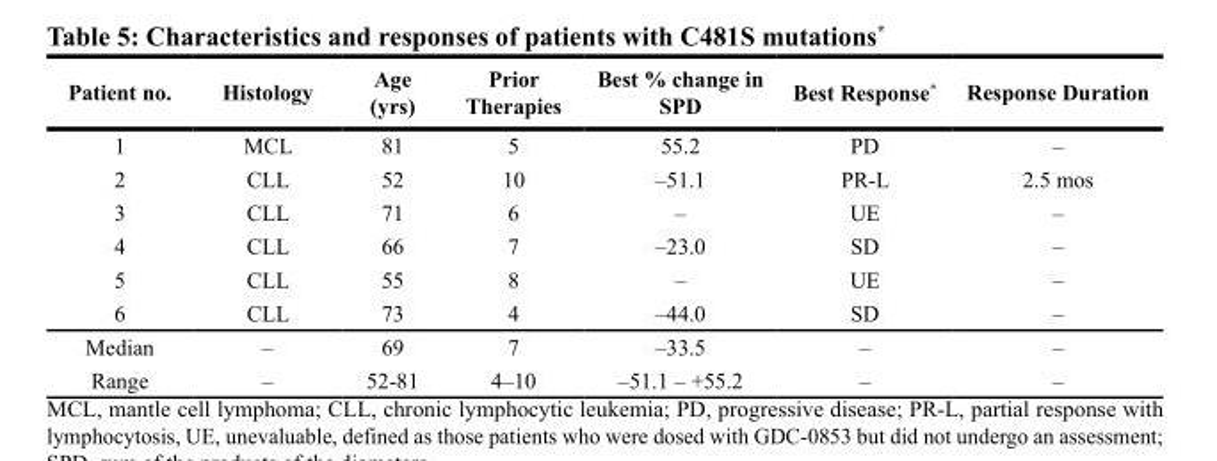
<table><thead><tr><td>Patient no.</td><td>Histology</td><td>Age (yrs)</td><td>Prior Therapies</td><td>Best % change in SPD</td><td>Best Response*</td><td>Response Duration</td></tr></thead><tbody><tr><td>1</td><td>MCL</td><td>81</td><td>5</td><td>55.2</td><td>PD</td><td>–</td></tr><tr><td>2</td><td>CLL</td><td>52</td><td>10</td><td>–51.1</td><td>PR-L</td><td>2.5 mos</td></tr><tr><td>3</td><td>CLL</td><td>71</td><td>6</td><td>–</td><td>UE</td><td>–</td></tr><tr><td>4</td><td>CLL</td><td>66</td><td>7</td><td>–23.0</td><td>SD</td><td>–</td></tr><tr><td>5</td><td>CLL</td><td>55</td><td>8</td><td>–</td><td>UE</td><td>–</td></tr><tr><td>6</td><td>CLL</td><td>73</td><td>4</td><td>–44.0</td><td>SD</td><td>–</td></tr><tr><td>Median</td><td>–</td><td>69</td><td>7</td><td>–33.5</td><td>–</td><td>–</td></tr><tr><td>Range</td><td>–</td><td>52-81</td><td>4–10</td><td>–51.1 – +55.2</td><td>–</td><td>–</td></tr></tbody></table>